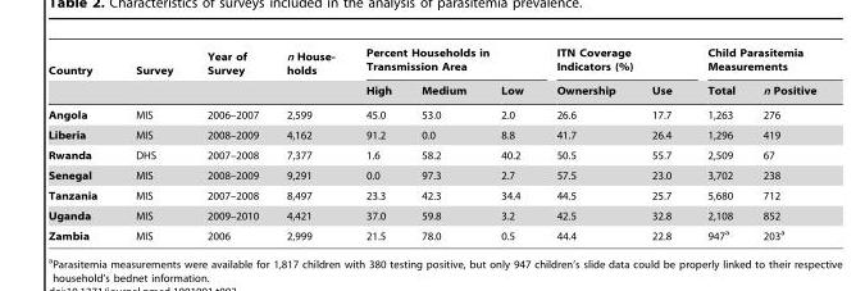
<table><thead><tr><td rowspan="2">Country</td><td rowspan="2">Survey</td><td rowspan="2">Year of Survey</td><td rowspan="2">n House- holds</td><td colspan="3">Percent Households in Transmission Area</td><td colspan="2">ITN Coverage Indicators (%)</td><td colspan="2">Child Parasitemia Measurements</td></tr><tr><td>High</td><td>Medium</td><td>Low</td><td>Ownership</td><td>Use</td><td>Total</td><td>n Positive</td></tr></thead><tbody><tr><td>Angola</td><td>MIS</td><td>2006–2007</td><td>2,599</td><td>45.0</td><td>53.0</td><td>2.0</td><td>26.6</td><td>17.7</td><td>1,263</td><td>276</td></tr><tr><td>Liberia</td><td>MIS</td><td>2008–2009</td><td>4,162</td><td>91.2</td><td>0.0</td><td>8.8</td><td>41.7</td><td>26.4</td><td>1,296</td><td>419</td></tr><tr><td>Rwanda</td><td>DHS</td><td>2007–2008</td><td>7,377</td><td>1.6</td><td>58.2</td><td>40.2</td><td>50.5</td><td>55.7</td><td>2,509</td><td>67</td></tr><tr><td>Senegal</td><td>MIS</td><td>2008–2009</td><td>9,291</td><td>0.0</td><td>97.3</td><td>2.7</td><td>57.5</td><td>23.0</td><td>3,702</td><td>238</td></tr><tr><td>Tanzania</td><td>MIS</td><td>2007–2008</td><td>8,497</td><td>23.3</td><td>42.3</td><td>34.4</td><td>44.5</td><td>25.7</td><td>5,680</td><td>712</td></tr><tr><td>Uganda</td><td>MIS</td><td>2009–2010</td><td>4,421</td><td>37.0</td><td>59.8</td><td>3.2</td><td>42.5</td><td>32.8</td><td>2,108</td><td>852</td></tr><tr><td>Zambia</td><td>MIS</td><td>2006</td><td>2,999</td><td>21.5</td><td>78.0</td><td>0.5</td><td>44.4</td><td>22.8</td><td>947<sup>a</sup></td><td>203<sup>a</sup></td></tr></tbody></table>